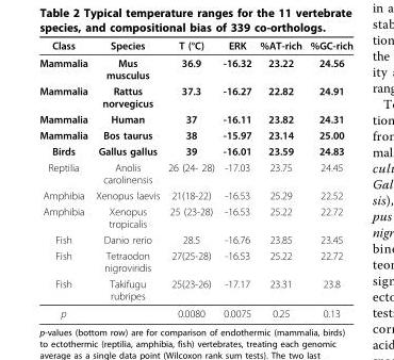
<table><thead><tr><td>Class</td><td>Species</td><td>T (°C)</td><td>ERK</td><td>%AT-rich</td><td>%GC-rich</td></tr></thead><tbody><tr><td>Mammalia</td><td>Mus musculus</td><td>36.9</td><td>-16.32</td><td>23.22</td><td>24.56</td></tr><tr><td>Mammalia</td><td>Rattus norvegicus</td><td>37.3</td><td>-16.27</td><td>22.82</td><td>24.91</td></tr><tr><td>Mammalia</td><td>Human</td><td>37</td><td>-16.11</td><td>23.82</td><td>24.31</td></tr><tr><td>Mammalia</td><td>Bos taurus</td><td>38</td><td>-15.97</td><td>23.14</td><td>25.00</td></tr><tr><td>Birds</td><td>Gallus gallus</td><td>39</td><td>-16.01</td><td>23.59</td><td>24.83</td></tr><tr><td>Reptilia</td><td>Anolis carolinensis</td><td>26 (24- 28)</td><td>-17.03</td><td>23.75</td><td>24.45</td></tr><tr><td>Amphibia</td><td>Xenopus laevis</td><td>21(18-22)</td><td>-16.53</td><td>25.29</td><td>22.52</td></tr><tr><td>Amphibia</td><td>Xenopus tropicalis</td><td>25 (23-28)</td><td>-16.53</td><td>25.22</td><td>22.72</td></tr><tr><td>Fish</td><td>Danio rerio</td><td>28.5</td><td>-16.76</td><td>23.85</td><td>23.45</td></tr><tr><td>Fish</td><td>Tetraodon nigroviridis</td><td>27(25-28)</td><td>-16.53</td><td>25.22</td><td>22.72</td></tr><tr><td>Fish</td><td>Takifugu rubripes</td><td>25(23-26)</td><td>-17.17</td><td>23.31</td><td>23.8</td></tr><tr><td>p</td><td></td><td>0.0080</td><td>0.0075</td><td>0.25</td><td>0.13</td></tr></tbody></table>